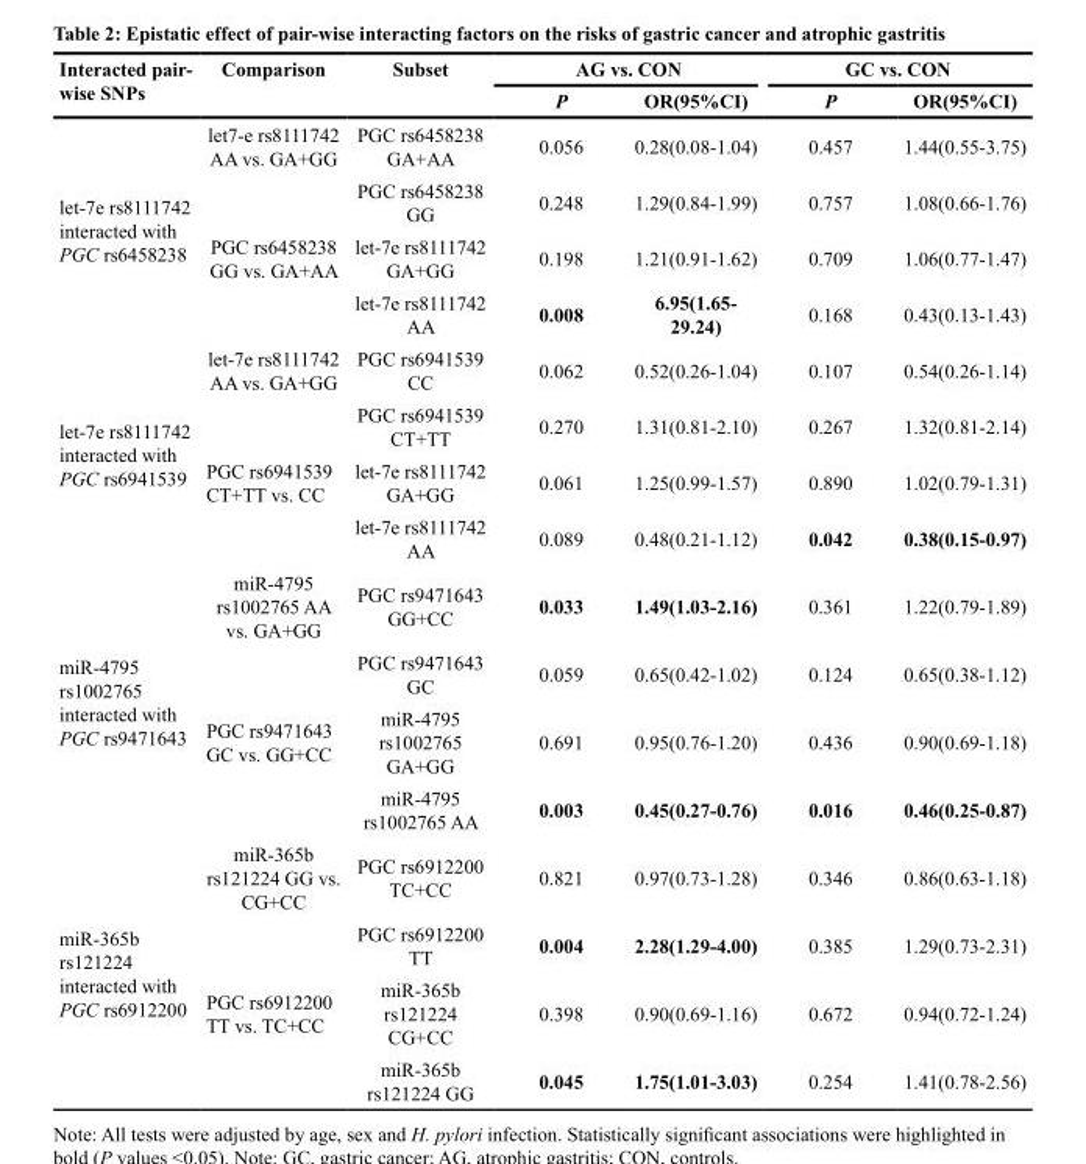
<table><thead><tr><td rowspan="2">Interacted pair- wise SNPs</td><td rowspan="2">Comparison</td><td rowspan="2">Subset</td><td colspan="2">AG vs. CON</td><td colspan="2">GC vs. CON</td></tr><tr><td>P</td><td>OR(95%CI)</td><td>P</td><td>OR(95%CI)</td></tr></thead><tbody><tr><td rowspan="4">let-7e rs8111742 interacted with PGC rs6458238</td><td>let7-e rs8111742 AA vs. GA+GG</td><td>PGC rs6458238 GA+AA</td><td>0.056</td><td>0.28(0.08-1.04)</td><td>0.457</td><td>1.44(0.55-3.75)</td></tr><tr><td></td><td>PGC rs6458238 GG</td><td>0.248</td><td>1.29(0.84-1.99)</td><td>0.757</td><td>1.08(0.66-1.76)</td></tr><tr><td>PGC rs6458238 GG vs. GA+AA</td><td>let-7e rs8111742 GA+GG</td><td>0.198</td><td>1.21(0.91-1.62)</td><td>0.709</td><td>1.06(0.77-1.47)</td></tr><tr><td></td><td>let-7e rs8111742 AA</td><td>0.008</td><td>6.95(1.65- 29.24)</td><td>0.168</td><td>0.43(0.13-1.43)</td></tr><tr><td rowspan="4">let-7e rs8111742 interacted with PGC rs6941539</td><td>let-7e rs8111742 AA vs. GA+GG</td><td>PGC rs6941539 CC</td><td>0.062</td><td>0.52(0.26-1.04)</td><td>0.107</td><td>0.54(0.26-1.14)</td></tr><tr><td></td><td>PGC rs6941539 CT+TT</td><td>0.270</td><td>1.31(0.81-2.10)</td><td>0.267</td><td>1.32(0.81-2.14)</td></tr><tr><td>PGC rs6941539 CT+TT vs. CC</td><td>let-7e rs8111742 GA+GG</td><td>0.061</td><td>1.25(0.99-1.57)</td><td>0.890</td><td>1.02(0.79-1.31)</td></tr><tr><td></td><td>let-7e rs8111742 AA</td><td>0.089</td><td>0.48(0.21-1.12)</td><td>0.042</td><td>0.38(0.15-0.97)</td></tr><tr><td rowspan="4">miR-4795 rs1002765 interacted with PGC rs9471643</td><td>miR-4795 rs1002765 AA vs. GA+GG</td><td>PGC rs9471643 GG+CC</td><td>0.033</td><td>1.49(1.03-2.16)</td><td>0.361</td><td>1.22(0.79-1.89)</td></tr><tr><td></td><td>PGC rs9471643 GC</td><td>0.059</td><td>0.65(0.42-1.02)</td><td>0.124</td><td>0.65(0.38-1.12)</td></tr><tr><td>PGC rs9471643 GC vs. GG+CC</td><td>miR-4795 rs1002765 GA+GG</td><td>0.691</td><td>0.95(0.76-1.20)</td><td>0.436</td><td>0.90(0.69-1.18)</td></tr><tr><td></td><td>miR-4795 rs1002765 AA</td><td>0.003</td><td>0.45(0.27-0.76)</td><td>0.016</td><td>0.46(0.25-0.87)</td></tr><tr><td rowspan="4">miR-365b rs121224 interacted with PGC rs6912200</td><td>miR-365b rs121224 GG vs. CG+CC</td><td>PGC rs6912200 TC+CC</td><td>0.821</td><td>0.97(0.73-1.28)</td><td>0.346</td><td>0.86(0.63-1.18)</td></tr><tr><td></td><td>PGC rs6912200 TT</td><td>0.004</td><td>2.28(1.29-4.00)</td><td>0.385</td><td>1.29(0.73-2.31)</td></tr><tr><td>PGC rs6912200 TT vs. TC+CC</td><td>miR-365b rs121224 CG+CC</td><td>0.398</td><td>0.90(0.69-1.16)</td><td>0.672</td><td>0.94(0.72-1.24)</td></tr><tr><td></td><td>miR-365b rs121224 GG</td><td>0.045</td><td>1.75(1.01-3.03)</td><td>0.254</td><td>1.41(0.78-2.56)</td></tr></tbody></table>